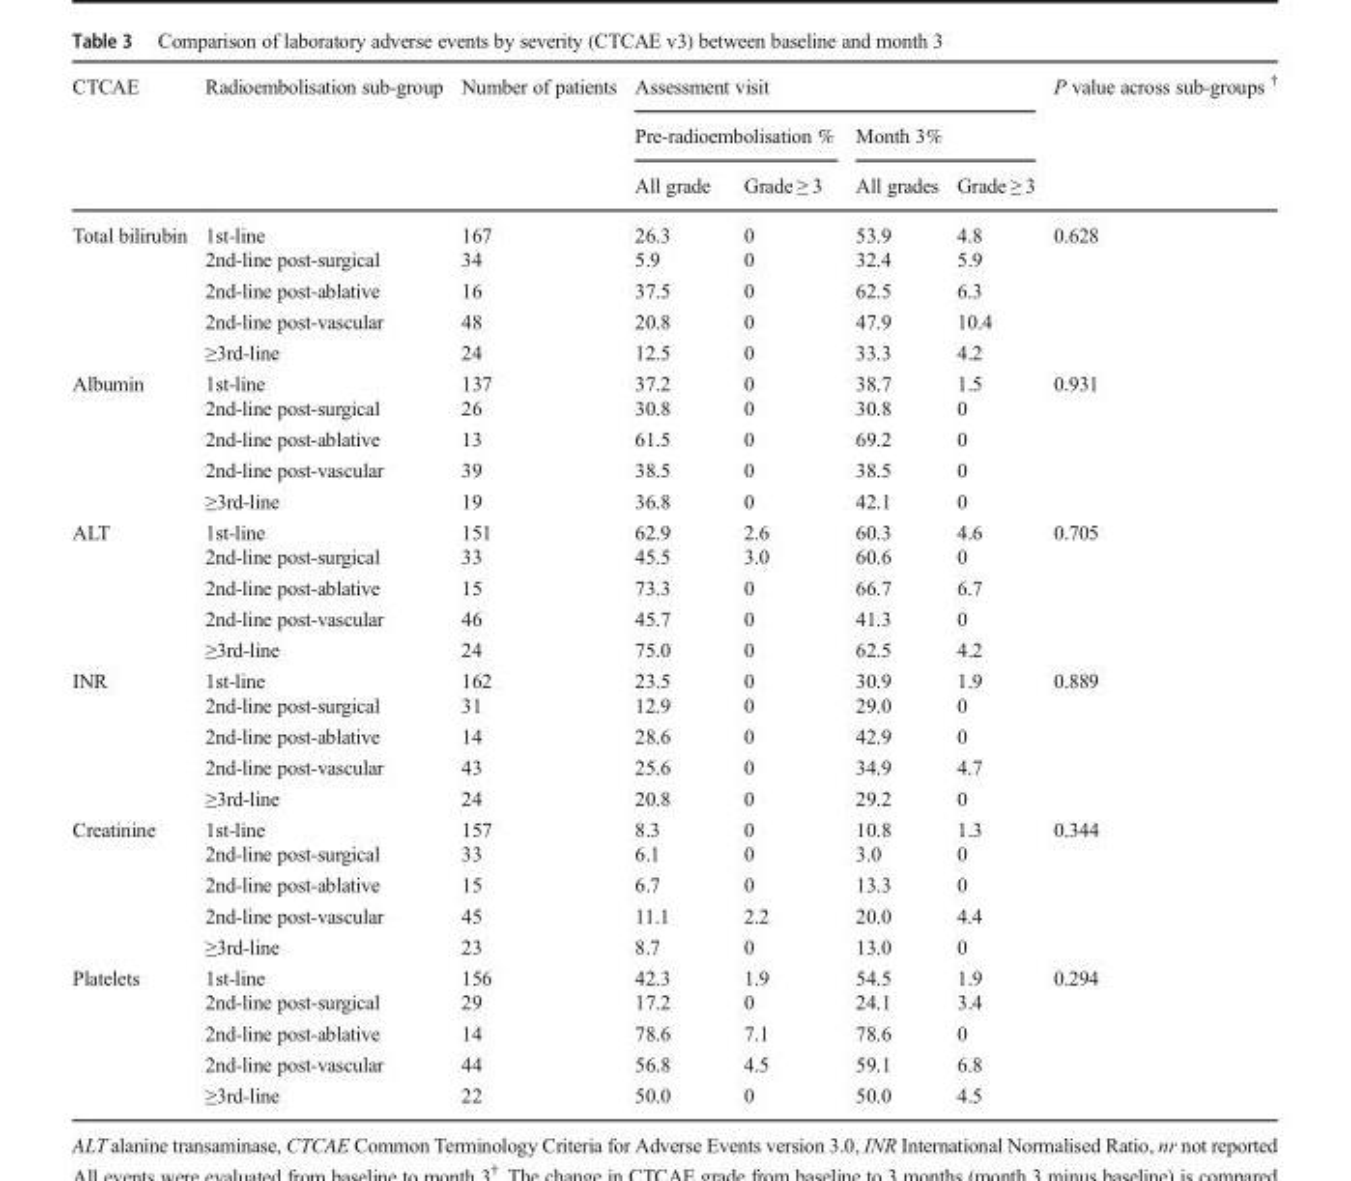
<table><thead><tr><td rowspan="3">CTCAE</td><td rowspan="3">Radioembolisation sub-group</td><td rowspan="3">Number of patients</td><td colspan="4">Assessment visit</td><td rowspan="3">P value across sub-groups <sup>†</sup></td></tr><tr><td colspan="2">Pre-radioembolisation %</td><td colspan="2">Month 3%</td></tr><tr><td>All grade</td><td>Grade ≥ 3</td><td>All grades</td><td>Grade ≥ 3</td></tr></thead><tbody><tr><td rowspan="5">Total bilirubin</td><td>1st-line</td><td>167</td><td>26.3</td><td>0</td><td>53.9</td><td>4.8</td><td rowspan="5">0.628</td></tr><tr><td>2nd-line post-surgical</td><td>34</td><td>5.9</td><td>0</td><td>32.4</td><td>5.9</td></tr><tr><td>2nd-line post-ablative</td><td>16</td><td>37.5</td><td>0</td><td>62.5</td><td>6.3</td></tr><tr><td>2nd-line post-vascular</td><td>48</td><td>20.8</td><td>0</td><td>47.9</td><td>10.4</td></tr><tr><td>≥3rd-line</td><td>24</td><td>12.5</td><td>0</td><td>33.3</td><td>4.2</td></tr><tr><td rowspan="5">Albumin</td><td>1st-line</td><td>137</td><td>37.2</td><td>0</td><td>38.7</td><td>1.5</td><td rowspan="5">0.931</td></tr><tr><td>2nd-line post-surgical</td><td>26</td><td>30.8</td><td>0</td><td>30.8</td><td>0</td></tr><tr><td>2nd-line post-ablative</td><td>13</td><td>61.5</td><td>0</td><td>69.2</td><td>0</td></tr><tr><td>2nd-line post-vascular</td><td>39</td><td>38.5</td><td>0</td><td>38.5</td><td>0</td></tr><tr><td>≥3rd-line</td><td>19</td><td>36.8</td><td>0</td><td>42.1</td><td>0</td></tr><tr><td rowspan="5">ALT</td><td>1st-line</td><td>151</td><td>62.9</td><td>2.6</td><td>60.3</td><td>4.6</td><td rowspan="5">0.705</td></tr><tr><td>2nd-line post-surgical</td><td>33</td><td>45.5</td><td>3.0</td><td>60.6</td><td>0</td></tr><tr><td>2nd-line post-ablative</td><td>15</td><td>73.3</td><td>0</td><td>66.7</td><td>6.7</td></tr><tr><td>2nd-line post-vascular</td><td>46</td><td>45.7</td><td>0</td><td>41.3</td><td>0</td></tr><tr><td>≥3rd-line</td><td>24</td><td>75.0</td><td>0</td><td>62.5</td><td>4.2</td></tr><tr><td rowspan="5">INR</td><td>1st-line</td><td>162</td><td>23.5</td><td>0</td><td>30.9</td><td>1.9</td><td rowspan="5">0.889</td></tr><tr><td>2nd-line post-surgical</td><td>31</td><td>12.9</td><td>0</td><td>29.0</td><td>0</td></tr><tr><td>2nd-line post-ablative</td><td>14</td><td>28.6</td><td>0</td><td>42.9</td><td>0</td></tr><tr><td>2nd-line post-vascular</td><td>43</td><td>25.6</td><td>0</td><td>34.9</td><td>4.7</td></tr><tr><td>≥3rd-line</td><td>24</td><td>20.8</td><td>0</td><td>29.2</td><td>0</td></tr><tr><td rowspan="5">Creatinine</td><td>1st-line</td><td>157</td><td>8.3</td><td>0</td><td>10.8</td><td>1.3</td><td rowspan="5">0.344</td></tr><tr><td>2nd-line post-surgical</td><td>33</td><td>6.1</td><td>0</td><td>3.0</td><td>0</td></tr><tr><td>2nd-line post-ablative</td><td>15</td><td>6.7</td><td>0</td><td>13.3</td><td>0</td></tr><tr><td>2nd-line post-vascular</td><td>45</td><td>11.1</td><td>2.2</td><td>20.0</td><td>4.4</td></tr><tr><td>≥3rd-line</td><td>23</td><td>8.7</td><td>0</td><td>13.0</td><td>0</td></tr><tr><td rowspan="5">Platelets</td><td>1st-line</td><td>156</td><td>42.3</td><td>1.9</td><td>54.5</td><td>1.9</td><td rowspan="5">0.294</td></tr><tr><td>2nd-line post-surgical</td><td>29</td><td>17.2</td><td>0</td><td>24.1</td><td>3.4</td></tr><tr><td>2nd-line post-ablative</td><td>14</td><td>78.6</td><td>7.1</td><td>78.6</td><td>0</td></tr><tr><td>2nd-line post-vascular</td><td>44</td><td>56.8</td><td>4.5</td><td>59.1</td><td>6.8</td></tr><tr><td>≥3rd-line</td><td>22</td><td>50.0</td><td>0</td><td>50.0</td><td>4.5</td></tr></tbody></table>